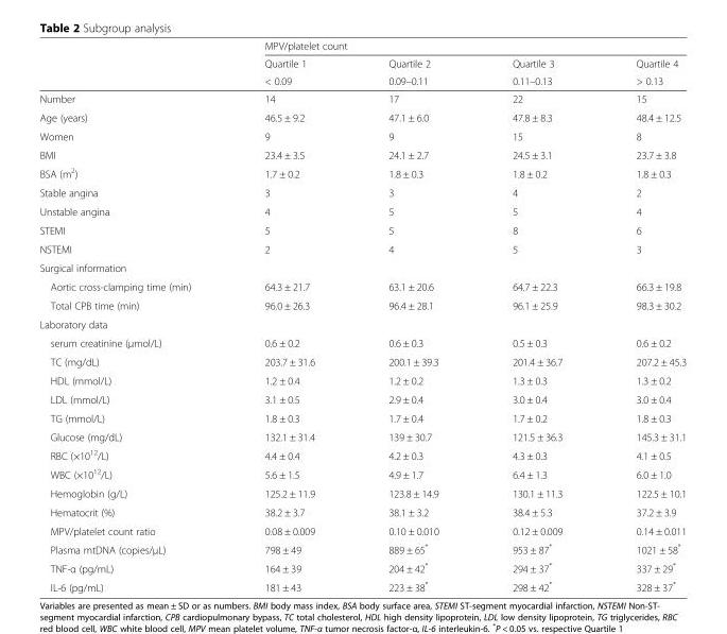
<table><thead><tr><td rowspan="3"></td><td colspan="4">MPV/platelet count</td></tr><tr><td rowspan="2">Quartile 1 &lt; 0.09</td><td rowspan="2">Quartile 2 0.09–0.11</td><td rowspan="2">Quartile 3 0.11–0.13</td><td rowspan="2">Quartile 4 &gt; 0.13</td></tr><tr></tr></thead><tbody><tr><td>Number</td><td>14</td><td>17</td><td>22</td><td>15</td></tr><tr><td>Age (years)</td><td>46.5 ± 9.2</td><td>47.1 ± 6.0</td><td>47.8 ± 8.3</td><td>48.4 ± 12.5</td></tr><tr><td>Women</td><td>9</td><td>9</td><td>15</td><td>8</td></tr><tr><td>BMI</td><td>23.4 ± 3.5</td><td>24.1 ± 2.7</td><td>24.5 ± 3.1</td><td>23.7 ± 3.8</td></tr><tr><td>BSA (m<sup>2</sup>)</td><td>1.7 ± 0.2</td><td>1.8 ± 0.3</td><td>1.8 ± 0.2</td><td>1.8 ± 0.3</td></tr><tr><td>Stable angina</td><td>3</td><td>3</td><td>4</td><td>2</td></tr><tr><td>Unstable angina</td><td>4</td><td>5</td><td>5</td><td>4</td></tr><tr><td>STEMI</td><td>5</td><td>5</td><td>8</td><td>6</td></tr><tr><td>NSTEMI</td><td>2</td><td>4</td><td>5</td><td>3</td></tr><tr><td colspan="5">Surgical information</td></tr><tr><td>Aortic cross-clamping time (min)</td><td>64.3 ± 21.7</td><td>63.1 ± 20.6</td><td>64.7 ± 22.3</td><td>66.3 ± 19.8</td></tr><tr><td>Total CPB time (min)</td><td>96.0 ± 26.3</td><td>96.4 ± 28.1</td><td>96.1 ± 25.9</td><td>98.3 ± 30.2</td></tr><tr><td colspan="5">Laboratory data</td></tr><tr><td>serum creatinine (μmol/L)</td><td>0.6 ± 0.2</td><td>0.6 ± 0.3</td><td>0.5 ± 0.3</td><td>0.6 ± 0.2</td></tr><tr><td>TC (mg/dL)</td><td>203.7 ± 31.6</td><td>200.1 ± 39.3</td><td>201.4 ± 36.7</td><td>207.2 ± 45.3</td></tr><tr><td>HDL (mmol/L)</td><td>1.2 ± 0.4</td><td>1.2 ± 0.2</td><td>1.3 ± 0.3</td><td>1.3 ± 0.2</td></tr><tr><td>LDL (mmol/L)</td><td>3.1 ± 0.5</td><td>2.9 ± 0.4</td><td>3.0 ± 0.4</td><td>3.0 ± 0.4</td></tr><tr><td>TG (mmol/L)</td><td>1.8 ± 0.3</td><td>1.7 ± 0.4</td><td>1.7 ± 0.2</td><td>1.8 ± 0.3</td></tr><tr><td>Glucose (mg/dL)</td><td>132.1 ± 31.4</td><td>139 ± 30.7</td><td>121.5 ± 36.3</td><td>145.3 ± 31.1</td></tr><tr><td>RBC (×10<sup>12</sup>/L)</td><td>4.4 ± 0.4</td><td>4.2 ± 0.3</td><td>4.3 ± 0.3</td><td>4.1 ± 0.5</td></tr><tr><td>WBC (×10<sup>12</sup>/L)</td><td>5.6 ± 1.5</td><td>4.9 ± 1.7</td><td>6.4 ± 1.3</td><td>6.0 ± 1.0</td></tr><tr><td>Hemoglobin (g/L)</td><td>125.2 ± 11.9</td><td>123.8 ± 14.9</td><td>130.1 ± 11.3</td><td>122.5 ± 10.1</td></tr><tr><td>Hematocrit (%)</td><td>38.2 ± 3.7</td><td>38.1 ± 3.2</td><td>38.4 ± 5.3</td><td>37.2 ± 3.9</td></tr><tr><td>MPV/platelet count ratio</td><td>0.08 ± 0.009</td><td>0.10 ± 0.010</td><td>0.12 ± 0.009</td><td>0.14 ± 0.011</td></tr><tr><td>Plasma mtDNA (copies/μL)</td><td>798 ± 49</td><td>889 ± 65*</td><td>953 ± 87*</td><td>1021 ± 58*</td></tr><tr><td>TNF-α (pg/mL)</td><td>164 ± 39</td><td>204 ± 42*</td><td>294 ± 37*</td><td>337 ± 29*</td></tr><tr><td>IL-6 (pg/mL)</td><td>181 ± 43</td><td>223 ± 38*</td><td>298 ± 42*</td><td>328 ± 37*</td></tr></tbody></table>